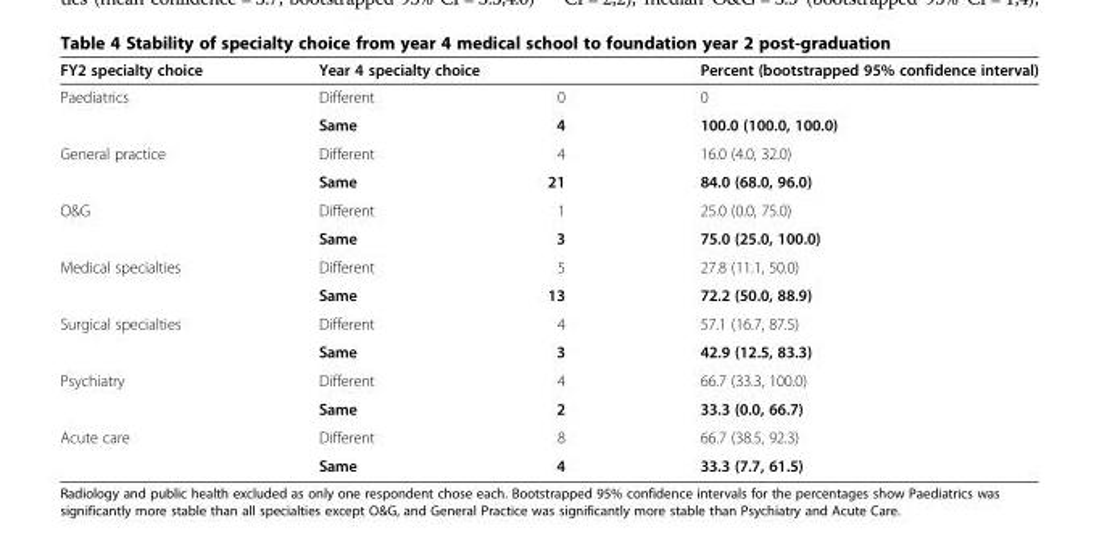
<table><thead><tr><td rowspan="2">FY2 specialty choice Paediatrics</td><td colspan="2">Year 4 specialty choice</td><td rowspan="2">Percent (bootstrapped 95% confidence interval) 0</td></tr><tr><td>Different</td><td>0</td></tr></thead><tbody><tr><td></td><td>Same</td><td>4</td><td>100.0 (100.0, 100.0)</td></tr><tr><td rowspan="2">General practice</td><td>Different</td><td>4</td><td>16.0 (4.0, 32.0)</td></tr><tr><td>Same</td><td>21</td><td>84.0 (68.0, 96.0)</td></tr><tr><td rowspan="2">O&amp;G</td><td>Different</td><td>1</td><td>25.0 (0.0, 75.0)</td></tr><tr><td>Same</td><td>3</td><td>75.0 (25.0, 100.0)</td></tr><tr><td rowspan="2">Medical specialties</td><td>Different</td><td>5</td><td>27.8 (11.1, 50.0)</td></tr><tr><td>Same</td><td>13</td><td>72.2 (50.0, 88.9)</td></tr><tr><td rowspan="2">Surgical specialties</td><td>Different</td><td>4</td><td>57.1 (16.7, 87.5)</td></tr><tr><td>Same</td><td>3</td><td>42.9 (12.5, 83.3)</td></tr><tr><td rowspan="2">Psychiatry</td><td>Different</td><td>4</td><td>66.7 (33.3, 100.0)</td></tr><tr><td>Same</td><td>2</td><td>33.3 (0.0, 66.7)</td></tr><tr><td rowspan="2">Acute care</td><td>Different</td><td>8</td><td>66.7 (38.5, 92.3)</td></tr><tr><td>Same</td><td>4</td><td>33.3 (7.7, 61.5)</td></tr></tbody></table>